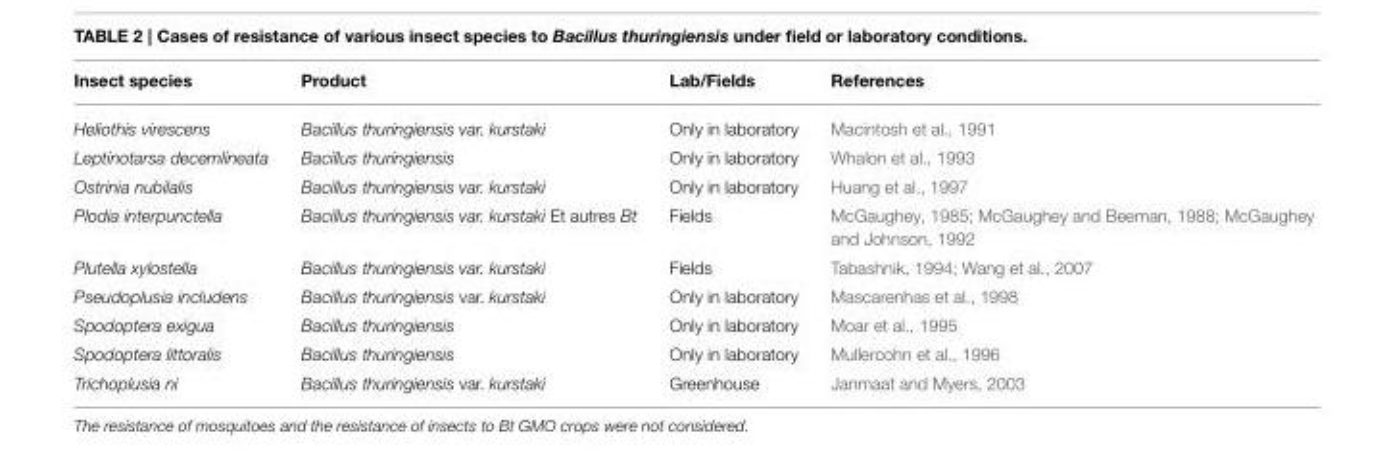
<table><thead><tr><td>Insect species</td><td>Product</td><td>Lab/Fields</td><td>References</td></tr></thead><tbody><tr><td>Heliothis virescens</td><td>Bacillus thuringiensis var. kurstaki</td><td>Only in laboratory</td><td>Macintosh et al., 1991</td></tr><tr><td>Leptinotarsa decemlineata</td><td>Bacillus thuringiensis</td><td>Only in laboratory</td><td>Whalon et al., 1993</td></tr><tr><td>Ostrinia nubilalis</td><td>Bacillus thuringiensis var. kurstaki</td><td>Only in laboratory</td><td>Huang et al., 1997</td></tr><tr><td>Plodia interpunctella</td><td>Bacillus thuringiensis var. kurstaki Et autres Bt</td><td>Fields</td><td>McGaughey, 1985; McGaughey and Beeman, 1988; McGaughey and Johnson, 1992</td></tr><tr><td>Plutella xylostella</td><td>Bacillus thuringiensis var. kurstaki</td><td>Fields</td><td>Tabashnik, 1994; Wang et al., 2007</td></tr><tr><td>Pseudoplusia includens</td><td>Bacillus thuringiensis var. kurstaki</td><td>Only in laboratory</td><td>Mascarenhas et al., 1998</td></tr><tr><td>Spodoptera exigua</td><td>Bacillus thuringiensis</td><td>Only in laboratory</td><td>Moar et al., 1995</td></tr><tr><td>Spodoptera littoralis</td><td>Bacillus thuringiensis</td><td>Only in laboratory</td><td>Mullercohn et al., 1996</td></tr><tr><td>Trichoplusia ni</td><td>Bacillus thuringiensis var. kurstaki</td><td>Greenhouse</td><td>Janmaat and Myers, 2003</td></tr></tbody></table>